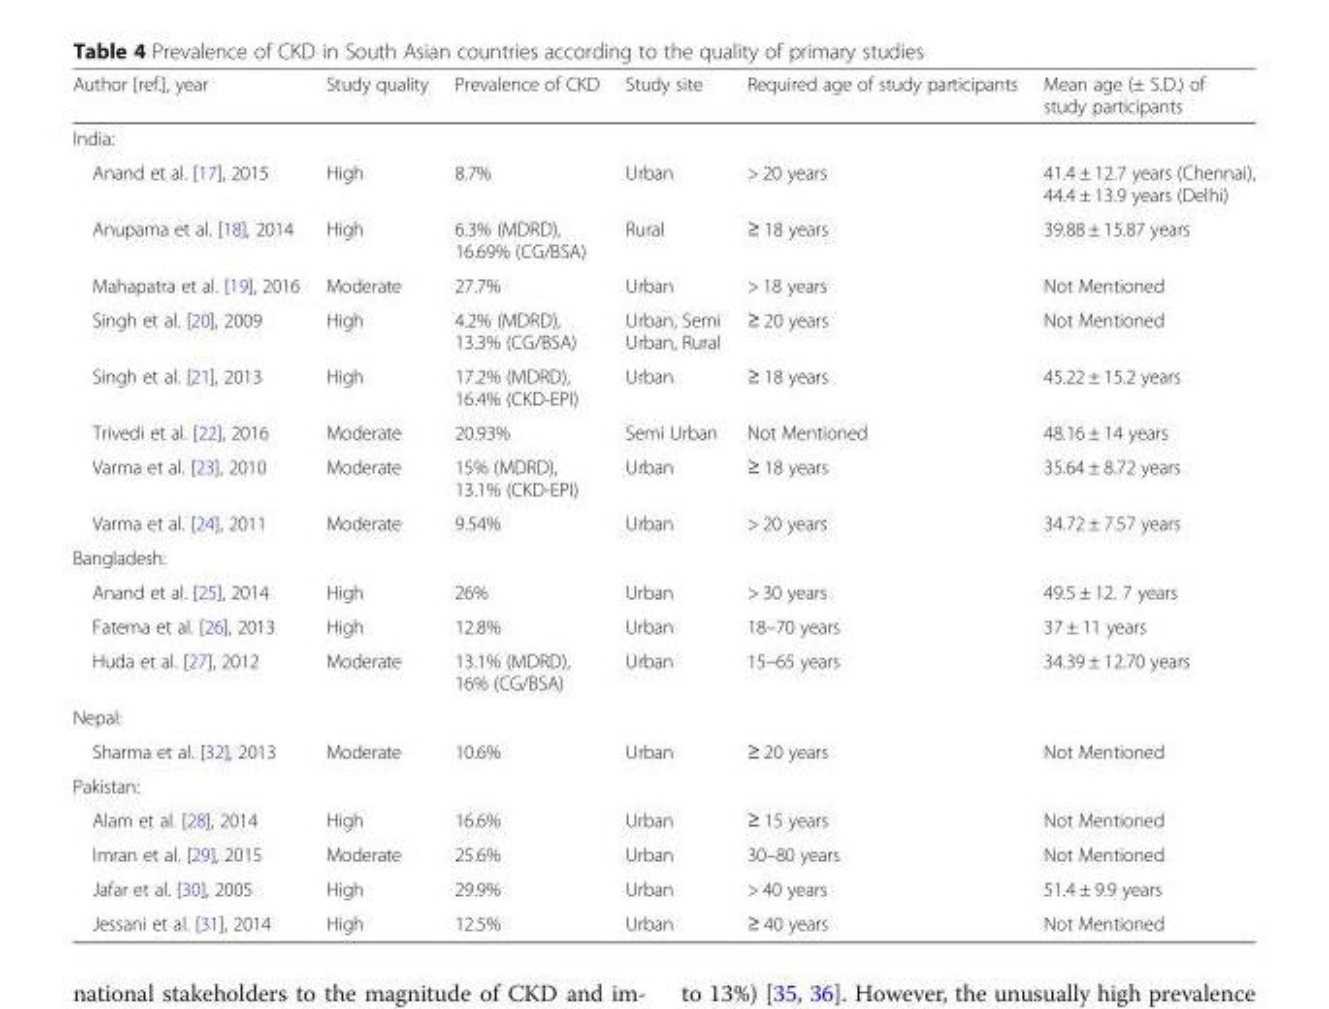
<table><thead><tr><td>Author [ref.], year</td><td>Study quality</td><td>Prevalence of CKD</td><td>Study site</td><td>Required age of study participants</td><td>Mean age (± S.D.) of study participants</td></tr></thead><tbody><tr><td colspan="6">India:</td></tr><tr><td>Anand et al. [17], 2015</td><td>High</td><td>8.7%</td><td>Urban</td><td>&gt; 20 years</td><td>41.4 ± 12.7 years (Chennai), 44.4 ± 13.9 years (Delhi)</td></tr><tr><td>Anupama et al. [18], 2014</td><td>High</td><td>6.3% (MDRD), 16.69% (CG/BSA)</td><td>Rural</td><td>≥ 18 years</td><td>39.88 ± 15.87 years</td></tr><tr><td>Mahapatra et al. [19], 2016</td><td>Moderate</td><td>27.7%</td><td>Urban</td><td>&gt; 18 years</td><td>Not Mentioned</td></tr><tr><td>Singh et al. [20], 2009</td><td>High</td><td>4.2% (MDRD), 13.3% (CG/BSA)</td><td>Urban, Semi Urban, Rural</td><td>≥ 20 years</td><td>Not Mentioned</td></tr><tr><td>Singh et al. [21], 2013</td><td>High</td><td>17.2% (MDRD), 16.4% (CKD-EPI)</td><td>Urban</td><td>≥ 18 years</td><td>45.22 ± 15.2 years</td></tr><tr><td>Trivedi et al. [22], 2016</td><td>Moderate</td><td>20.93%</td><td>Semi Urban</td><td>Not Mentioned</td><td>48.16 ± 14 years</td></tr><tr><td>Varma et al. [23], 2010</td><td>Moderate</td><td>15% (MDRD), 13.1% (CKD-EPI)</td><td>Urban</td><td>≥ 18 years</td><td>35.64 ± 8.72 years</td></tr><tr><td>Varma et al. [24], 2011</td><td>Moderate</td><td>9.54%</td><td>Urban</td><td>&gt; 20 years</td><td>34.72 ± 7.57 years</td></tr><tr><td colspan="6">Bangladesh:</td></tr><tr><td>Anand et al. [25], 2014</td><td>High</td><td>26%</td><td>Urban</td><td>&gt; 30 years</td><td>49.5 ± 12. 7 years</td></tr><tr><td>Fatema et al. [26], 2013</td><td>High</td><td>12.8%</td><td>Urban</td><td>18–70 years</td><td>37 ± 11 years</td></tr><tr><td>Huda et al. [27], 2012</td><td>Moderate</td><td>13.1% (MDRD), 16% (CG/BSA)</td><td>Urban</td><td>15–65 years</td><td>34.39 ± 12.70 years</td></tr><tr><td colspan="6">Nepal:</td></tr><tr><td>Sharma et al. [32], 2013</td><td>Moderate</td><td>10.6%</td><td>Urban</td><td>≥ 20 years</td><td>Not Mentioned</td></tr><tr><td colspan="6">Pakistan:</td></tr><tr><td>Alam et al. [28], 2014</td><td>High</td><td>16.6%</td><td>Urban</td><td>≥ 15 years</td><td>Not Mentioned</td></tr><tr><td>Imran et al. [29], 2015</td><td>Moderate</td><td>25.6%</td><td>Urban</td><td>30–80 years</td><td>Not Mentioned</td></tr><tr><td>Jafar et al. [30], 2005</td><td>High</td><td>29.9%</td><td>Urban</td><td>&gt; 40 years</td><td>51.4 ± 9.9 years</td></tr><tr><td>Jessani et al. [31], 2014</td><td>High</td><td>12.5%</td><td>Urban</td><td>≥ 40 years</td><td>Not Mentioned</td></tr></tbody></table>